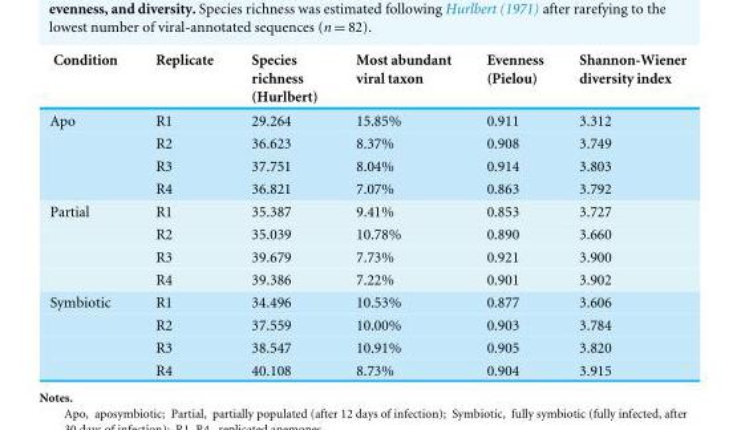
<table><thead><tr><td>Condition</td><td>Replicate</td><td>Species richness (Hurlbert)</td><td>Most abundant viral taxon</td><td>Evenness (Pielou)</td><td>Shannon-Wiener diversity index</td></tr></thead><tbody><tr><td rowspan="4">Apo</td><td>R1</td><td>29.264</td><td>15.85%</td><td>0.911</td><td>3.312</td></tr><tr><td>R2</td><td>36.623</td><td>8.37%</td><td>0.908</td><td>3.749</td></tr><tr><td>R3</td><td>37.751</td><td>8.04%</td><td>0.914</td><td>3.803</td></tr><tr><td>R4</td><td>36.821</td><td>7.07%</td><td>0.863</td><td>3.792</td></tr><tr><td rowspan="4">Partial</td><td>R1</td><td>35.387</td><td>9.41%</td><td>0.853</td><td>3.727</td></tr><tr><td>R2</td><td>35.039</td><td>10.78%</td><td>0.890</td><td>3.660</td></tr><tr><td>R3</td><td>39.679</td><td>7.73%</td><td>0.921</td><td>3.900</td></tr><tr><td>R4</td><td>39.386</td><td>7.22%</td><td>0.901</td><td>3.902</td></tr><tr><td rowspan="4">Symbiotic</td><td>R1</td><td>34.496</td><td>10.53%</td><td>0.877</td><td>3.606</td></tr><tr><td>R2</td><td>37.559</td><td>10.00%</td><td>0.903</td><td>3.784</td></tr><tr><td>R3</td><td>38.547</td><td>10.91%</td><td>0.905</td><td>3.820</td></tr><tr><td>R4</td><td>40.108</td><td>8.73%</td><td>0.904</td><td>3.915</td></tr></tbody></table>